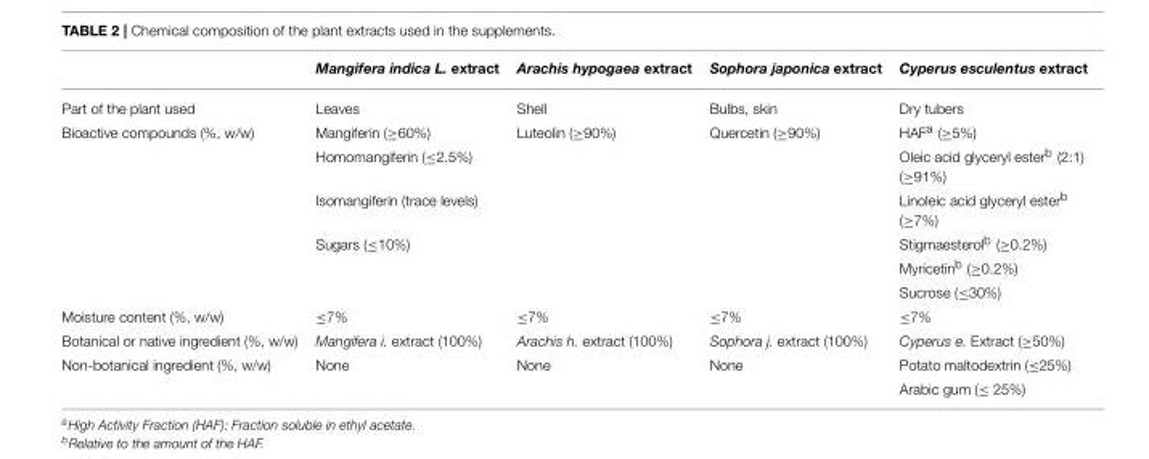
<table><thead><tr><td></td><td>Mangifera indica L. extract</td><td>Arachis hypogaea extract</td><td>Sophora japonica extract</td><td>Cyperus esculentus extract</td></tr></thead><tbody><tr><td>Part of the plant used</td><td>Leaves</td><td>Shell</td><td>Bulbs, skin</td><td>Dry tubers</td></tr><tr><td rowspan="6">Bioactive compounds (%, w/w)</td><td>Mangiferin (≥60%)</td><td>Luteolin (≥90%)</td><td>Quercetin (≥90%)</td><td>HAF<sup>a</sup> (≥5%)</td></tr><tr><td>Homomangiferin (≤2.5%)</td><td></td><td></td><td>Oleic acid glyceryl ester<sup>b</sup> (2:1) (≥91%)</td></tr><tr><td>Isomangiferin (trace levels)</td><td></td><td></td><td>Linoleic acid glyceryl ester<sup>b</sup> (≥7%)</td></tr><tr><td>Sugars (≤10%)</td><td></td><td></td><td>Stigmaesterol<sup>b</sup> (≥0.2%)</td></tr><tr><td></td><td></td><td></td><td>Myricetin<sup>b</sup> (≥0.2%)</td></tr><tr><td></td><td></td><td></td><td>Sucrose (≤30%)</td></tr><tr><td>Moisture content (%, w/w)</td><td>≤7%</td><td>≤7%</td><td>≤7%</td><td>≤7%</td></tr><tr><td>Botanical or native ingredient (%, w/w)</td><td>Mangifera i. extract (100%)</td><td>Arachis h. extract (100%)</td><td>Sophora j. extract (100%)</td><td>Cyperus e. Extract (≥50%)</td></tr><tr><td rowspan="2">Non-botanical ingredient (%, w/w)</td><td>None</td><td>None</td><td>None</td><td>Potato maltodextrin (≤25%)</td></tr><tr><td></td><td></td><td></td><td>Arabic gum (≤ 25%)</td></tr></tbody></table>